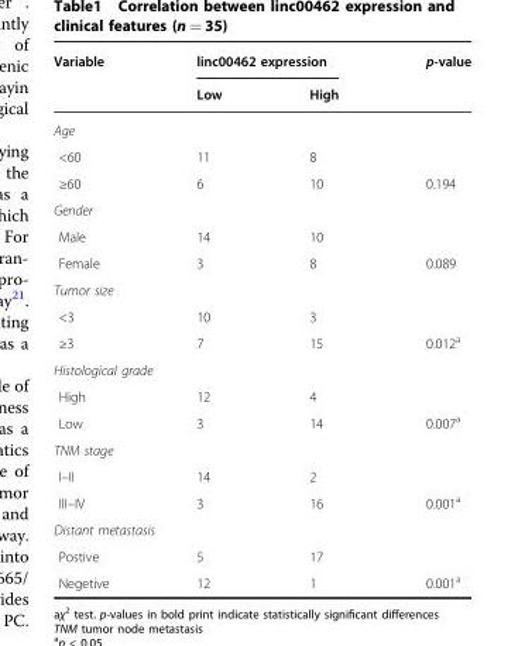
<table><thead><tr><td rowspan="2">Variable</td><td colspan="2">linc00462 expression</td><td rowspan="2">p-value</td></tr><tr><td>Low</td><td>High</td></tr></thead><tbody><tr><td colspan="4">Age</td></tr><tr><td>&lt;60</td><td>11</td><td>8</td><td></td></tr><tr><td>≥60</td><td>6</td><td>10</td><td>0.194</td></tr><tr><td colspan="4">Gender</td></tr><tr><td>Male</td><td>14</td><td>10</td><td></td></tr><tr><td>Female</td><td>3</td><td>8</td><td>0.089</td></tr><tr><td colspan="4">Tumor size</td></tr><tr><td>&lt;3</td><td>10</td><td>3</td><td></td></tr><tr><td>≥3</td><td>7</td><td>15</td><td>0.012<sup>a</sup></td></tr><tr><td colspan="4">Histological grade</td></tr><tr><td>High</td><td>12</td><td>4</td><td></td></tr><tr><td>Low</td><td>3</td><td>14</td><td>0.007<sup>a</sup></td></tr><tr><td colspan="4">TNM stage</td></tr><tr><td>I–II</td><td>14</td><td>2</td><td></td></tr><tr><td>III–IV</td><td>3</td><td>16</td><td>0.001<sup>a</sup></td></tr><tr><td colspan="4">Distant metastasis</td></tr><tr><td>Postive</td><td>5</td><td>17</td><td></td></tr><tr><td>Negetive</td><td>12</td><td>1</td><td>0.001<sup>a</sup></td></tr></tbody></table>